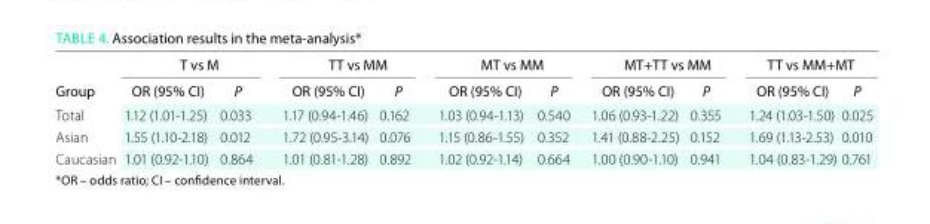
<table><thead><tr><td rowspan="2">Group</td><td colspan="2">t vs M</td><td colspan="2">tt vs MM</td><td colspan="2">Mt vs MM</td><td colspan="2">Mt+tt vs MM</td><td colspan="2">tt vs MM+Mt</td></tr><tr><td>oR (95% CI)</td><td>P</td><td>oR (95% CI)</td><td>P</td><td>oR (95% CI)</td><td>P</td><td>oR (95% CI)</td><td>P</td><td>oR (95% CI)</td><td>P</td></tr></thead><tbody><tr><td>Total</td><td>1.12 (1.01-1.25)</td><td>0.033</td><td>1.17 (0.94-1.46)</td><td>0.162</td><td>1.03 (0.94-1.13)</td><td>0.540</td><td>1.06 (0.93-1.22)</td><td>0.355</td><td>1.24 (1.03-1.50)</td><td>0.025</td></tr><tr><td>Asian</td><td>1.55 (1.10-2.18)</td><td>0.012</td><td>1.72 (0.95-3.14)</td><td>0.076</td><td>1.15 (0.86-1.55)</td><td>0.352</td><td>1.41 (0.88-2.25)</td><td>0.152</td><td>1.69 (1.13-2.53)</td><td>0.010</td></tr><tr><td>Caucasian</td><td>1.01 (0.92-1.10)</td><td>0.864</td><td>1.01 (0.81-1.28)</td><td>0.892</td><td>1.02 (0.92-1.14)</td><td>0.664</td><td>1.00 (0.90-1.10)</td><td>0.941</td><td>1.04 (0.83-1.29)</td><td>0.761</td></tr></tbody></table>